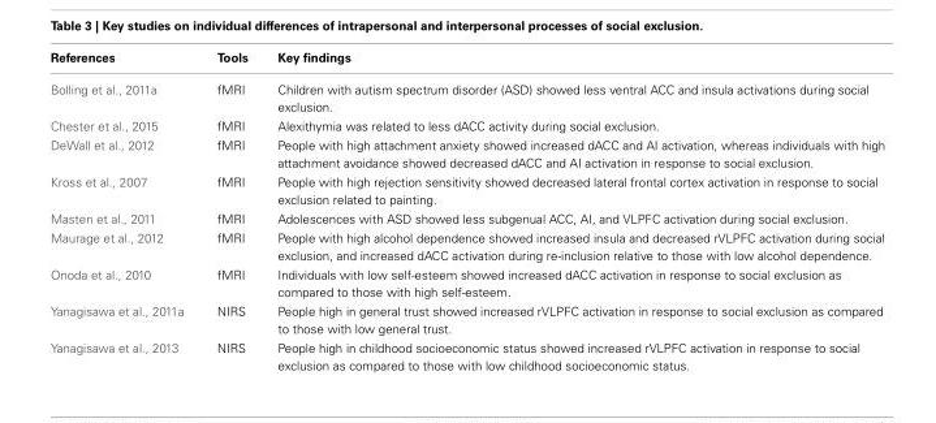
<table><thead><tr><td>References</td><td>Tools</td><td>Key findings</td></tr></thead><tbody><tr><td>Bolling et al., 2011a</td><td>fMRI</td><td>Children with autism spectrum disorder (ASD) showed less ventral ACC and insula activations during social exclusion.</td></tr><tr><td>Chester et al., 2015</td><td>fMRI</td><td>Alexithymia was related to less dACC activity during social exclusion.</td></tr><tr><td>DeWall et al., 2012</td><td>fMRI</td><td>People with high attachment anxiety showed increased dACC and AI activation, whereas individuals with high attachment avoidance showed decreased dACC and AI activation in response to social exclusion.</td></tr><tr><td>Kross et al., 2007</td><td>fMRI</td><td>People with high rejection sensitivity showed decreased lateral frontal cortex activation in response to social exclusion related to painting.</td></tr><tr><td>Masten et al., 2011</td><td>fMRI</td><td>Adolescences with ASD showed less subgenual ACC, AI, and VLPFC activation during social exclusion.</td></tr><tr><td>Maurage et al., 2012</td><td>fMRI</td><td>People with high alcohol dependence showed increased insula and decreased rVLPFC activation during social exclusion, and increased dACC activation during re-inclusion relative to those with low alcohol dependence.</td></tr><tr><td>Onoda et al., 2010</td><td>fMRI</td><td>Individuals with low self-esteem showed increased dACC activation in response to social exclusion as compared to those with high self-esteem.</td></tr><tr><td>Yanagisawa et al., 2011a</td><td>NIRS</td><td>People high in general trust showed increased rVLPFC activation in response to social exclusion as compared to those with low general trust.</td></tr><tr><td>Yanagisawa et al., 2013</td><td>NIRS</td><td>People high in childhood socioeconomic status showed increased rVLPFC activation in response to social exclusion as compared to those with low childhood socioeconomic status.</td></tr></tbody></table>